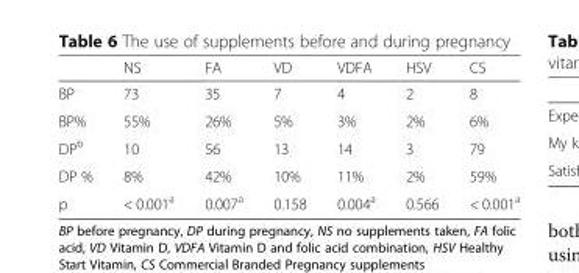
<table><thead><tr><td></td><td>NS</td><td>FA</td><td>VD</td><td>VDFA</td><td>HSV</td><td>CS</td></tr></thead><tbody><tr><td>BP</td><td>73</td><td>35</td><td>7</td><td>4</td><td>2</td><td>8</td></tr><tr><td>BP%</td><td>55%</td><td>26%</td><td>5%</td><td>3%</td><td>2%</td><td>6%</td></tr><tr><td>DP<sup>b</sup></td><td>10</td><td>56</td><td>13</td><td>14</td><td>3</td><td>79</td></tr><tr><td>DP %</td><td>8%</td><td>42%</td><td>10%</td><td>11%</td><td>2%</td><td>59%</td></tr><tr><td>p</td><td>&lt; 0.001<sup>a</sup></td><td>0.007<sup>a</sup></td><td>0.158</td><td>0.004<sup>a</sup></td><td>0.566</td><td>&lt; 0.001<sup>a</sup></td></tr></tbody></table>